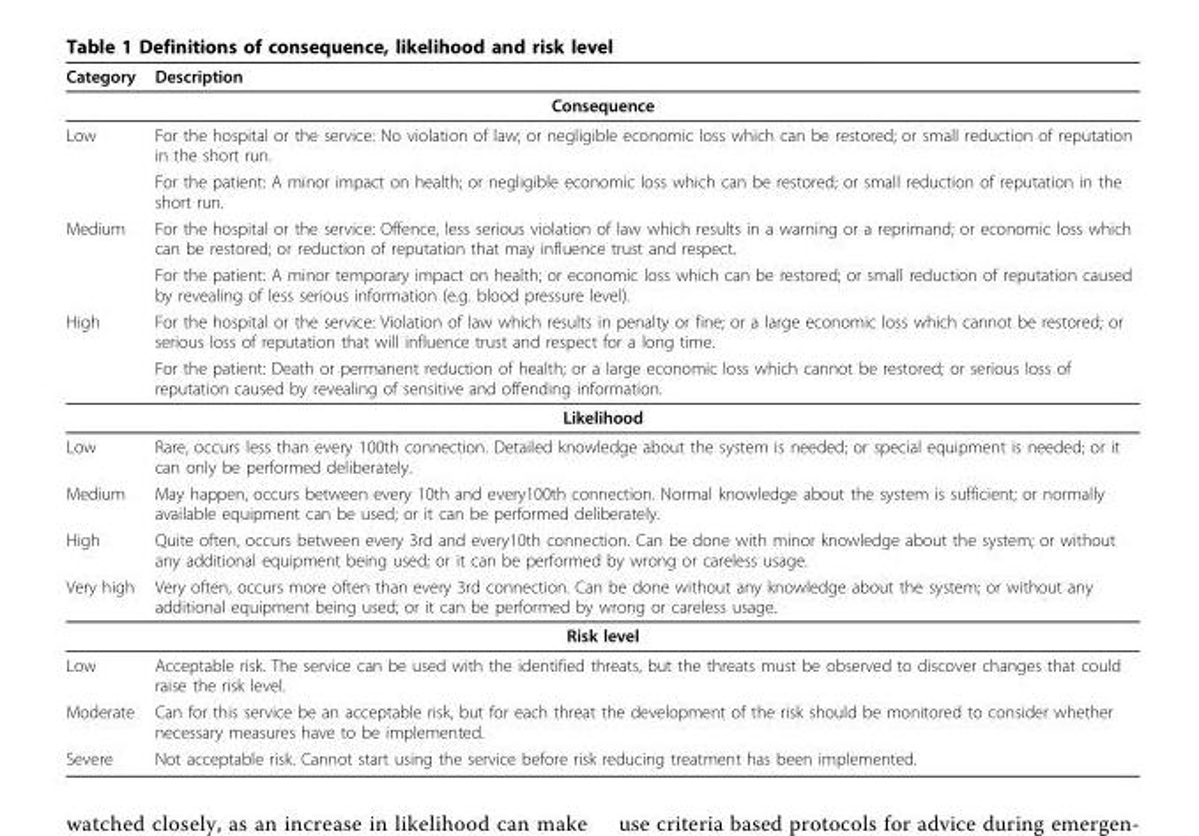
<table><thead><tr><td>Category</td><td>Description</td></tr></thead><tbody><tr><td colspan="2">Consequence</td></tr><tr><td rowspan="2">Low</td><td>For the hospital or the service: No violation of law; or negligible economic loss which can be restored; or small reduction of reputation in the short run.</td></tr><tr><td>For the patient: A minor impact on health; or negligible economic loss which can be restored; or small reduction of reputation in the short run.</td></tr><tr><td rowspan="2">Medium</td><td>For the hospital or the service: Offence, less serious violation of law which results in a warning or a reprimand; or economic loss which can be restored; or reduction of reputation that may influence trust and respect.</td></tr><tr><td>For the patient: A minor temporary impact on health; or economic loss which can be restored; or small reduction of reputation caused by revealing of less serious information (e.g. blood pressure level).</td></tr><tr><td rowspan="2">High</td><td>For the hospital or the service: Violation of law which results in penalty or fine; or a large economic loss which cannot be restored; or serious loss of reputation that will influence trust and respect for a long time.</td></tr><tr><td>For the patient: Death or permanent reduction of health; or a large economic loss which cannot be restored; or serious loss of reputation caused by revealing of sensitive and offending information.</td></tr><tr><td colspan="2">Likelihood</td></tr><tr><td>Low</td><td>Rare, occurs less than every 100th connection. Detailed knowledge about the system is needed; or special equipment is needed; or it can only be performed deliberately.</td></tr><tr><td>Medium</td><td>May happen, occurs between every 10th and every100th connection. Normal knowledge about the system is sufficient; or normally available equipment can be used; or it can be performed deliberately.</td></tr><tr><td>High</td><td>Quite often, occurs between every 3rd and every10th connection. Can be done with minor knowledge about the system; or without any additional equipment being used; or it can be performed by wrong or careless usage.</td></tr><tr><td>Very high</td><td>Very often, occurs more often than every 3rd connection. Can be done without any knowledge about the system; or without any additional equipment being used; or it can be performed by wrong or careless usage.</td></tr><tr><td colspan="2">Risk level</td></tr><tr><td>Low</td><td>Acceptable risk. The service can be used with the identified threats, but the threats must be observed to discover changes that could raise the risk level.</td></tr><tr><td>Moderate</td><td>Can for this service be an acceptable risk, but for each threat the development of the risk should be monitored to consider whether necessary measures have to be implemented.</td></tr><tr><td>Severe</td><td>Not acceptable risk. Cannot start using the service before risk reducing treatment has been implemented.</td></tr></tbody></table>